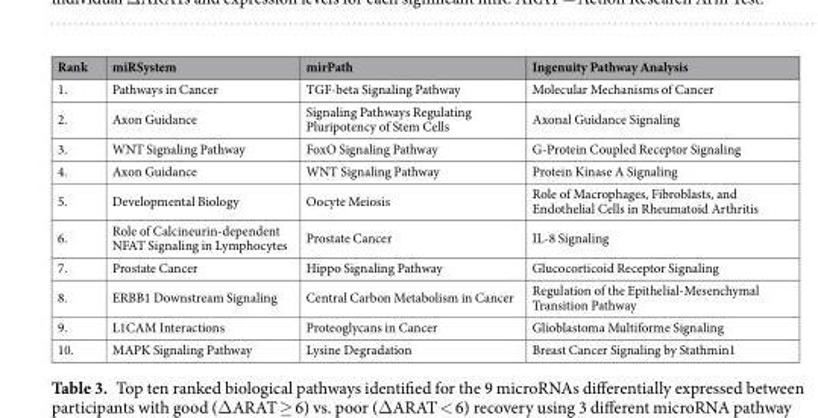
<table><thead><tr><td>Rank</td><td>miRSystem</td><td>mirPath</td><td>Ingenuity Pathway Analysis</td></tr></thead><tbody><tr><td>1.</td><td>Pathways in Cancer</td><td>TGF-beta Signaling Pathway</td><td>Molecular Mechanisms of Cancer</td></tr><tr><td>2.</td><td>Axon Guidance</td><td>Signaling Pathways Regulating Pluripotency of Stem Cells</td><td>Axonal Guidance Signaling</td></tr><tr><td>3.</td><td>WNT Signaling Pathway</td><td>FoxO Signaling Pathway</td><td>G-Protein Coupled Receptor Signaling</td></tr><tr><td>4.</td><td>Axon Guidance</td><td>WNT Signaling Pathway</td><td>Protein Kinase A Signaling</td></tr><tr><td>5.</td><td>Developmental Biology</td><td>Oocyte Meiosis</td><td>Role of Macrophages, Fibroblasts, and Endothelial Cells in Rheumatoid Arthritis</td></tr><tr><td>6.</td><td>Role of Calcineurin-dependent NFAT Signaling in Lymphocytes</td><td>Prostate Cancer</td><td>IL-8 Signaling</td></tr><tr><td>7.</td><td>Prostate Cancer</td><td>Hippo Signaling Pathway</td><td>Glucocorticoid Receptor Signaling</td></tr><tr><td>8.</td><td>ERBB1 Downstream Signaling</td><td>Central Carbon Metabolism in Cancer</td><td>Regulation of the Epithelial-Mesenchymal Transition Pathway</td></tr><tr><td>9.</td><td>L1CAM Interactions</td><td>Proteoglycans in Cancer</td><td>Glioblastoma Multiforme Signaling</td></tr><tr><td>10.</td><td>MAPK Signaling Pathway</td><td>Lysine Degradation</td><td>Breast Cancer Signaling by Stathmin1</td></tr></tbody></table>